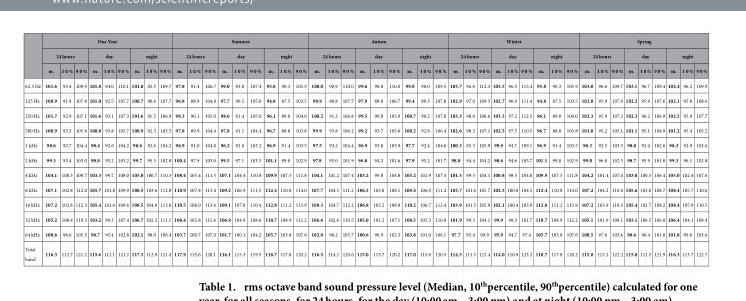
<table><thead><tr><td rowspan="3"></td><td colspan="9">One Year</td><td colspan="9">Summer</td><td colspan="9">Autum</td><td colspan="9">Winter</td><td colspan="9">Spring</td></tr><tr><td colspan="3">24 hours</td><td colspan="3">day</td><td colspan="3">night</td><td colspan="3">24 hours</td><td colspan="3">day</td><td colspan="3">night</td><td colspan="3">24 hours</td><td colspan="3">day</td><td colspan="3">night</td><td colspan="3">24 hours</td><td colspan="3">day</td><td colspan="3">night</td><td colspan="3">24 hours</td><td colspan="3">day</td><td colspan="3">night</td></tr><tr><td>m.</td><td>1 0 %</td><td>9 0 %</td><td>m.</td><td>1 0 %</td><td>9 0 %</td><td>m.</td><td>1 0 %</td><td>9 0 %</td><td>m.</td><td>1 0 %</td><td>9 0 %</td><td>m.</td><td>1 0 %</td><td>9 0 %</td><td>m.</td><td>1 0 %</td><td>9 0 %</td><td>m.</td><td>1 0 %</td><td>9 0 %</td><td>m.</td><td>1 0 %</td><td>9 0 %</td><td>m.</td><td>1 0 %</td><td>9 0 %</td><td>m.</td><td>1 0 %</td><td>9 0 %</td><td>m.</td><td>1 0 %</td><td>9 0 %</td><td>m.</td><td>1 0 %</td><td>9 0 %</td><td>m.</td><td>1 0 %</td><td>9 0 %</td><td>m.</td><td>1 0 %</td><td>9 0 %</td><td>m.</td><td>1 0 %</td><td>9 0 %</td></tr></thead><tbody><tr><td>62.5 Hz</td><td>101.6</td><td>93.4</td><td>109.9</td><td>101.8</td><td>94.0</td><td>110.1</td><td>101.0</td><td>92.5</td><td>109.7</td><td>97.8</td><td>91.4</td><td>106.7</td><td>99.0</td><td>93.0</td><td>107.4</td><td>95.8</td><td>90.3</td><td>105.9</td><td>100.0</td><td>90.9</td><td>110.0</td><td>99.6</td><td>90.8</td><td>110.0</td><td>99.8</td><td>90.0</td><td>109.5</td><td>103.7</td><td>96.6</td><td>112.3</td><td>103.5</td><td>96.3</td><td>113.4</td><td>95.8</td><td>90.3</td><td>105.9</td><td>103.0</td><td>96.6</td><td>109.7</td><td>103.1</td><td>96.7</td><td>109.4</td><td>102.4</td><td>96.2</td><td>109.9</td></tr><tr><td>125 Hz</td><td>100.9</td><td>91.9</td><td>107.8</td><td>101.0</td><td>92.5</td><td>107.7</td><td>100.7</td><td>90.6</td><td>107.7</td><td>96.8</td><td>88.9</td><td>104.8</td><td>97.7</td><td>90.5</td><td>105.0</td><td>94.8</td><td>87.5</td><td>103.5</td><td>98.9</td><td>88.8</td><td>107.7</td><td>97.9</td><td>88.0</td><td>106.7</td><td>99.4</td><td>89.3</td><td>107.8</td><td>102.9</td><td>97.0</td><td>109.5</td><td>102.7</td><td>96.9</td><td>111.4</td><td>94.8</td><td>87.5</td><td>103.5</td><td>102.0</td><td>95.9</td><td>107.9</td><td>102.2</td><td>95.9</td><td>107.6</td><td>102.1</td><td>95.8</td><td>108.6</td></tr><tr><td>250 Hz</td><td>101.7</td><td>92.9</td><td>107.1</td><td>101.6</td><td>93.1</td><td>107.3</td><td>101.6</td><td>91.5</td><td>106.9</td><td>98.3</td><td>90.1</td><td>105.0</td><td>98.6</td><td>91.4</td><td>105.0</td><td>96.1</td><td>89.0</td><td>104.0</td><td>100.2</td><td>91.2</td><td>106.8</td><td>99.5</td><td>90.8</td><td>105.9</td><td>100.7</td><td>90.2</td><td>107.0</td><td>103.3</td><td>98.0</td><td>108.6</td><td>103.3</td><td>97.2</td><td>112.5</td><td>96.1</td><td>89.0</td><td>104.0</td><td>102.3</td><td>95.9</td><td>107.3</td><td>102.3</td><td>96.2</td><td>106.9</td><td>102.5</td><td>95.9</td><td>107.7</td></tr><tr><td>500 Hz</td><td>100.9</td><td>93.3</td><td>105.8</td><td>100.8</td><td>93.8</td><td>105.7</td><td>100.9</td><td>92.3</td><td>105.5</td><td>97.8</td><td>89.9</td><td>104.4</td><td>97.8</td><td>91.1</td><td>104.4</td><td>96.7</td><td>88.8</td><td>103.8</td><td>99.9</td><td>93.8</td><td>106.2</td><td>99.2</td><td>93.7</td><td>105.6</td><td>100.2</td><td>92.8</td><td>106.4</td><td>102.6</td><td>98.3</td><td>107.1</td><td>102.5</td><td>97.5</td><td>110.5</td><td>96.7</td><td>88.8</td><td>103.8</td><td>101.0</td><td>95.2</td><td>105.1</td><td>101.1</td><td>95.1</td><td>104.9</td><td>101.2</td><td>95.4</td><td>105.2</td></tr><tr><td>1 kHz</td><td>98.6</td><td>92.7</td><td>104.4</td><td>98.4</td><td>92.6</td><td>104.2</td><td>98.6</td><td>92.6</td><td>104.2</td><td>96.9</td><td>91.0</td><td>104.0</td><td>96.2</td><td>91.0</td><td>103.2</td><td>96.9</td><td>91.4</td><td>103.5</td><td>97.5</td><td>93.2</td><td>104.4</td><td>96.9</td><td>93.0</td><td>103.9</td><td>97.7</td><td>92.4</td><td>104.6</td><td>100.3</td><td>95.3</td><td>105.9</td><td>99.9</td><td>94.7</td><td>109.1</td><td>96.9</td><td>91.4</td><td>103.5</td><td>98.3</td><td>92.5</td><td>103.3</td><td>98.8</td><td>92.4</td><td>102.6</td><td>98.3</td><td>92.9</td><td>103.6</td></tr><tr><td>2 kHz</td><td>99.3</td><td>95.4</td><td>103.0</td><td>98.8</td><td>95.2</td><td>103.2</td><td>99.7</td><td>95.5</td><td>102.8</td><td>100.4</td><td>97.9</td><td>103.0</td><td>99.5</td><td>97.1</td><td>103.5</td><td>101.1</td><td>99.0</td><td>102.9</td><td>97 8</td><td>95.0</td><td>101.9</td><td>96.8</td><td>94.2</td><td>101.6</td><td>97.9</td><td>95.2</td><td>101.7</td><td>98.8</td><td>94.4</td><td>104.2</td><td>98.6</td><td>94.6</td><td>105.7</td><td>101.1</td><td>99.0</td><td>102.9</td><td>99.0</td><td>96.0</td><td>102.5</td><td>98.7</td><td>95.9</td><td>101.8</td><td>99.3</td><td>96.1</td><td>102.8</td></tr><tr><td>4 kHz</td><td>104.1</td><td>100.3</td><td>109.7</td><td>103.3</td><td>99.7</td><td>108.0</td><td>105.0</td><td>100.7</td><td>110.3</td><td>108.4</td><td>105.4</td><td>111.5</td><td>107.1</td><td>104.4</td><td>110.8</td><td>109.9</td><td>107.5</td><td>111.8</td><td>104.1</td><td>101.2</td><td>107.4</td><td>103.2</td><td>99.8</td><td>104.8</td><td>105.2</td><td>101.9</td><td>107.3</td><td>101.3</td><td>99.3</td><td>104.1</td><td>100.8</td><td>98.5</td><td>104.8</td><td>109.9</td><td>107.5</td><td>111.8</td><td>104.2</td><td>101.4</td><td>107.4</td><td>103.0</td><td>100.5</td><td>106.4</td><td>105.0</td><td>102.4</td><td>107.6</td></tr><tr><td>8 kHz</td><td>107.1</td><td>102.8</td><td>112.0</td><td>105.7</td><td>101.8</td><td>109.9</td><td>108.5</td><td>103.6</td><td>112.8</td><td>110.9</td><td>107.8</td><td>113.4</td><td>109.2</td><td>106.9</td><td>111.5</td><td>112.4</td><td>110.8</td><td>114.0</td><td>107.7</td><td>104.5</td><td>111.2</td><td>106.5</td><td>103.0</td><td>108.1</td><td>109.4</td><td>106.0</td><td>111.2</td><td>103.7</td><td>101.6</td><td>105.7</td><td>102.3</td><td>100.8</td><td>104.5</td><td>112.4</td><td>110.8</td><td>114.0</td><td>107.2</td><td>104.2</td><td>110.4</td><td>105.6</td><td>103.0</td><td>108.7</td><td>108.4</td><td>105.7</td><td>110.6</td></tr><tr><td>16 kHz</td><td>107.2</td><td>102.8</td><td>112.3</td><td>105.4</td><td>101.6</td><td>109.6</td><td>108.5</td><td>104.0</td><td>113.0</td><td>110.5</td><td>108.0</td><td>113.6</td><td>109.1</td><td>107.0</td><td>110.4</td><td>112.8</td><td>111.2</td><td>113.9</td><td>108.3</td><td>104.7</td><td>112.2</td><td>106.8</td><td>103.2</td><td>108.8</td><td>110.2</td><td>106.7</td><td>112.4</td><td>103.9</td><td>101.5</td><td>105.9</td><td>102.1</td><td>100.4</td><td>103.9</td><td>112.8</td><td>111.2</td><td>113.9</td><td>107.2</td><td>103.9</td><td>110.3</td><td>105.4</td><td>102.7</td><td>108.2</td><td>108.4</td><td>105.9</td><td>110.5</td></tr><tr><td>32 kHz</td><td>105.2</td><td>100.8</td><td>110.3</td><td>103.2</td><td>99.3</td><td>107.4</td><td>106.7</td><td>102.2</td><td>111.1</td><td>108.4</td><td>105.8</td><td>111.6</td><td>106.9</td><td>104.9</td><td>108.6</td><td>110.7</td><td>108.9</td><td>112.2</td><td>106.6</td><td>102.6</td><td>110.5</td><td>105.0</td><td>101.2</td><td>107.1</td><td>108.5</td><td>105.3</td><td>110.8</td><td>101.9</td><td>99.3</td><td>104.1</td><td>99.9</td><td>98.3</td><td>101.7</td><td>110.7</td><td>108.9</td><td>112.2</td><td>105.1</td><td>101.9</td><td>108.1</td><td>103.1</td><td>100.5</td><td>106.0</td><td>106.4</td><td>104.1</td><td>108.4</td></tr><tr><td>64 kHz</td><td>100.6</td><td>96.6</td><td>105.5</td><td>98.7</td><td>95.4</td><td>102.8</td><td>102.1</td><td>98.0</td><td>106.4</td><td>103.7</td><td>100.7</td><td>107.0</td><td>101.7</td><td>100.1</td><td>104.2</td><td>105.7</td><td>103.8</td><td>107.6</td><td>102.0</td><td>98.2</td><td>105.7</td><td>100.6</td><td>96.9</td><td>102.3</td><td>103.8</td><td>101.0</td><td>106.1</td><td>97.7</td><td>95.4</td><td>99.9</td><td>95.9</td><td>94.7</td><td>97.4</td><td>105.7</td><td>103.8</td><td>107.6</td><td>100.5</td><td>97.6</td><td>103.6</td><td>98.6</td><td>96.4</td><td>101.0</td><td>101.8</td><td>99.6</td><td>103.6</td></tr><tr><td>Total band</td><td>116.3</td><td>112.7</td><td>121.2</td><td>115.6</td><td>112.1</td><td>121.2</td><td>117.3</td><td>112.9</td><td>121.4</td><td>117.9</td><td>115.6</td><td>120.1</td><td>116.1</td><td>115.3</td><td>119.5</td><td>118.7</td><td>117.8</td><td>120.2</td><td>116.5</td><td>114.2</td><td>120.6</td><td>115.0</td><td>113.7</td><td>120.2</td><td>117.0</td><td>115.0</td><td>120.5</td><td>114.5</td><td>111.5</td><td>122.4</td><td>114.0</td><td>110.9</td><td>123.2</td><td>118.7</td><td>117.8</td><td>120.2</td><td>115.8</td><td>113.2</td><td>122.2</td><td>115.0</td><td>112.5</td><td>121.9</td><td>116.3</td><td>113.7</td><td>122.7</td></tr></tbody></table>